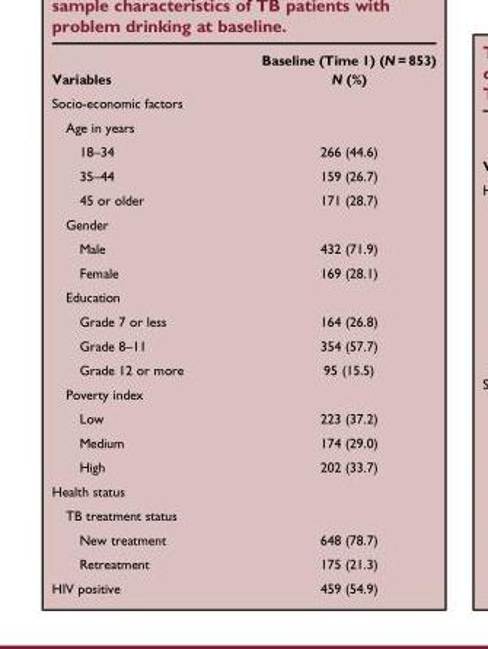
<table><thead><tr><td rowspan="2">Variables</td><td rowspan="2">Baseline (Time 1) (N = 853) N (%)</td></tr><tr></tr></thead><tbody><tr><td colspan="2">Socio-economic factors</td></tr><tr><td colspan="2">Age in years</td></tr><tr><td>18–34</td><td>266 (44.6)</td></tr><tr><td>35–44</td><td>159 (26.7)</td></tr><tr><td>45 or older</td><td>171 (28.7)</td></tr><tr><td colspan="2">Gender</td></tr><tr><td>Male</td><td>432 (71.9)</td></tr><tr><td>Female</td><td>169 (28.1)</td></tr><tr><td colspan="2">Education</td></tr><tr><td>Grade 7 or less</td><td>164 (26.8)</td></tr><tr><td>Grade 8–11</td><td>354 (57.7)</td></tr><tr><td>Grade 12 or more</td><td>95 (15.5)</td></tr><tr><td colspan="2">Poverty index</td></tr><tr><td>Low</td><td>223 (37.2)</td></tr><tr><td>Medium</td><td>174 (29.0)</td></tr><tr><td>High</td><td>202 (33.7)</td></tr><tr><td colspan="2">Health status</td></tr><tr><td colspan="2">TB treatment status</td></tr><tr><td>New treatment</td><td>648 (78.7)</td></tr><tr><td>Retreatment</td><td>175 (21.3)</td></tr><tr><td>HIV positive</td><td>459 (54.9)</td></tr></tbody></table>